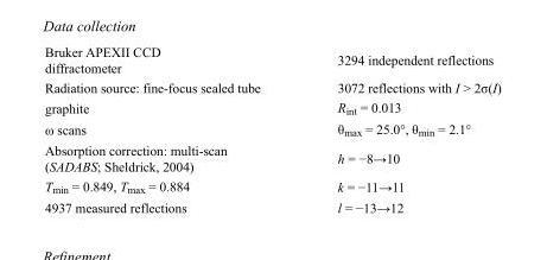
<table><tbody><tr><td>Bruker APEXII CCD diffractometer</td><td>3294 independent reflections</td></tr><tr><td>Radiation source: fine-focus sealed tube</td><td>3072 reflections with I &gt; 2σ(I)</td></tr><tr><td>graphite</td><td>R<sub>int</sub> = 0.013</td></tr><tr><td>ω scans</td><td>θ<sub>max</sub> = 25.0°, θ<sub>min</sub> = 2.1°</td></tr><tr><td>Absorption correction: multi-scan (SADABS; Sheldrick, 2004)</td><td>h = −8→10</td></tr><tr><td>T<sub>min</sub> = 0.849, T<sub>max</sub> = 0.884</td><td>k = −11→11</td></tr><tr><td>4937 measured reflections</td><td>l = −13→12</td></tr></tbody></table>